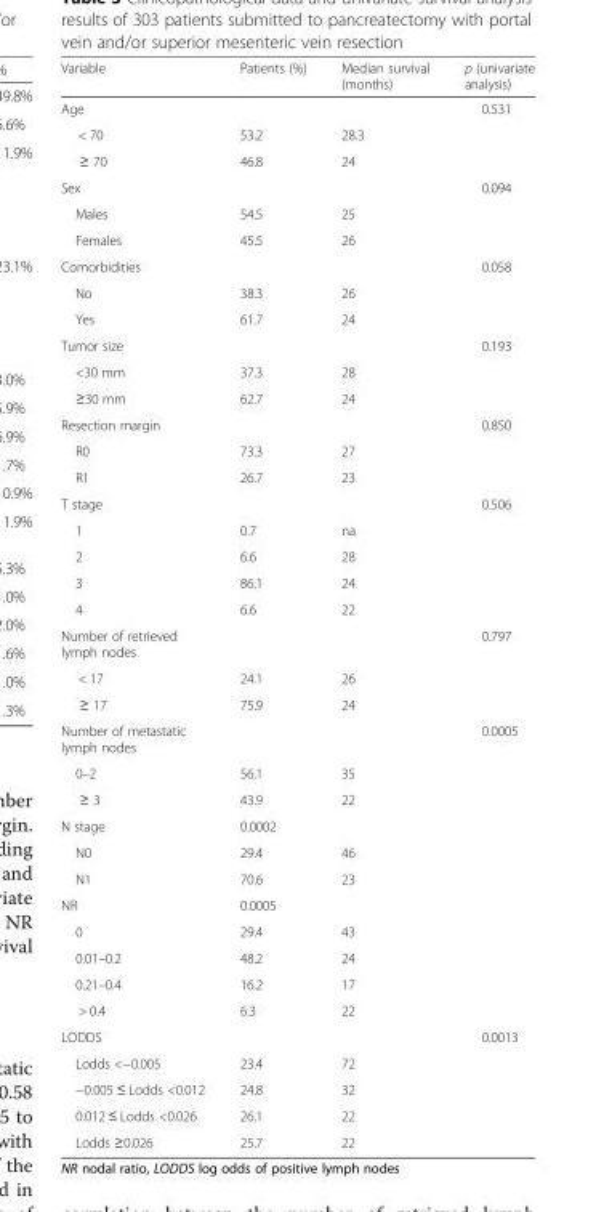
<table><thead><tr><td>Variable</td><td>Patients (%)</td><td>Median survival (months)</td><td>p (univariate analysis)</td></tr></thead><tbody><tr><td>Age</td><td></td><td></td><td>0.531</td></tr><tr><td>&lt; 70</td><td>53.2</td><td>28.3</td><td></td></tr><tr><td>≥ 70</td><td>46.8</td><td>24</td><td></td></tr><tr><td>Sex</td><td></td><td></td><td>0.094</td></tr><tr><td>Males</td><td>54.5</td><td>25</td><td></td></tr><tr><td>Females</td><td>45.5</td><td>26</td><td></td></tr><tr><td>Comorbidities</td><td></td><td></td><td>0.058</td></tr><tr><td>No</td><td>38.3</td><td>26</td><td></td></tr><tr><td>Yes</td><td>61.7</td><td>24</td><td></td></tr><tr><td>Tumor size</td><td></td><td></td><td>0.193</td></tr><tr><td>&lt;30 mm</td><td>37.3</td><td>28</td><td></td></tr><tr><td>≥30 mm</td><td>62.7</td><td>24</td><td></td></tr><tr><td>Resection margin</td><td></td><td></td><td>0.850</td></tr><tr><td>R0</td><td>73.3</td><td>27</td><td></td></tr><tr><td>R1</td><td>26.7</td><td>23</td><td></td></tr><tr><td>T stage</td><td></td><td></td><td>0.506</td></tr><tr><td>1</td><td>0.7</td><td>na</td><td></td></tr><tr><td>2</td><td>6.6</td><td>28</td><td></td></tr><tr><td>3</td><td>86.1</td><td>24</td><td></td></tr><tr><td>4</td><td>6.6</td><td>22</td><td></td></tr><tr><td>Number of retrieved lymph nodes</td><td></td><td></td><td>0.797</td></tr><tr><td>&lt; 17</td><td>24.1</td><td>26</td><td></td></tr><tr><td>≥ 17</td><td>75.9</td><td>24</td><td></td></tr><tr><td>Number of metastatic lymph nodes</td><td></td><td></td><td>0.0005</td></tr><tr><td>0–2</td><td>56.1</td><td>35</td><td></td></tr><tr><td>≥ 3</td><td>43.9</td><td>22</td><td></td></tr><tr><td>N stage</td><td>0.0002</td><td></td><td></td></tr><tr><td>N0</td><td>29.4</td><td>46</td><td></td></tr><tr><td>N1</td><td>70.6</td><td>23</td><td></td></tr><tr><td>NR</td><td>0.0005</td><td></td><td></td></tr><tr><td>0</td><td>29.4</td><td>43</td><td></td></tr><tr><td>0.01–0.2</td><td>48.2</td><td>24</td><td></td></tr><tr><td>0.21–0.4</td><td>16.2</td><td>17</td><td></td></tr><tr><td>&gt; 0.4</td><td>6.3</td><td>22</td><td></td></tr><tr><td>LODDS</td><td></td><td></td><td>0.0013</td></tr><tr><td>Lodds &lt;−0.005</td><td>23.4</td><td>72</td><td></td></tr><tr><td>−0.005 ≤ Lodds &lt;0.012</td><td>24.8</td><td>32</td><td></td></tr><tr><td>0.012 ≤ Lodds &lt;0.026</td><td>26.1</td><td>22</td><td></td></tr><tr><td>Lodds ≥0.026</td><td>25.7</td><td>22</td><td></td></tr></tbody></table>